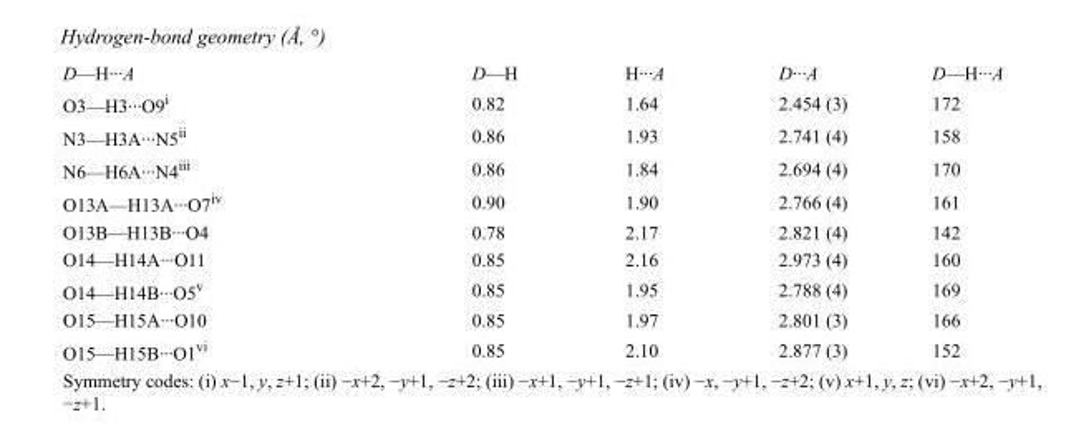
<table><tbody><tr><td>D—H···A</td><td>D—H</td><td>H···A</td><td>D···A</td><td>D—H···A</td></tr><tr><td>O3—H3···O9<sup>i</sup></td><td>0.82</td><td>1.64</td><td>2.454 (3)</td><td>172</td></tr><tr><td>N3—H3A···N5<sup>ii</sup></td><td>0.86</td><td>1.93</td><td>2.741 (4)</td><td>158</td></tr><tr><td>N6—H6A···N4<sup>iii</sup></td><td>0.86</td><td>1.84</td><td>2.694 (4)</td><td>170</td></tr><tr><td>O13A—H13A···O7<sup>iv</sup></td><td>0.90</td><td>1.90</td><td>2.766 (4)</td><td>161</td></tr><tr><td>O13B—H13B···O4</td><td>0.78</td><td>2.17</td><td>2.821 (4)</td><td>142</td></tr><tr><td>O14—H14A···O11</td><td>0.85</td><td>2.16</td><td>2.973 (4)</td><td>160</td></tr><tr><td>O14—H14B···O5<sup>v</sup></td><td>0.85</td><td>1.95</td><td>2.788 (4)</td><td>169</td></tr><tr><td>O15—H15A···O10</td><td>0.85</td><td>1.97</td><td>2.801 (3)</td><td>166</td></tr><tr><td>O15—H15B···O1<sup>vi</sup></td><td>0.85</td><td>2.10</td><td>2.877 (3)</td><td>152</td></tr></tbody></table>